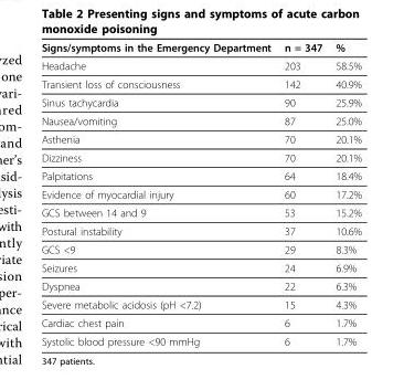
<table><thead><tr><td>Signs/symptoms in the Emergency Department</td><td>n = 347</td><td>%</td></tr></thead><tbody><tr><td>Headache</td><td>203</td><td>58.5%</td></tr><tr><td>Transient loss of consciousness</td><td>142</td><td>40.9%</td></tr><tr><td>Sinus tachycardia</td><td>90</td><td>25.9%</td></tr><tr><td>Nausea/vomiting</td><td>87</td><td>25.0%</td></tr><tr><td>Asthenia</td><td>70</td><td>20.1%</td></tr><tr><td>Dizziness</td><td>70</td><td>20.1%</td></tr><tr><td>Palpitations</td><td>64</td><td>18.4%</td></tr><tr><td>Evidence of myocardial injury</td><td>60</td><td>17.2%</td></tr><tr><td>GCS between 14 and 9</td><td>53</td><td>15.2%</td></tr><tr><td>Postural instability</td><td>37</td><td>10.6%</td></tr><tr><td>GCS &lt;9</td><td>29</td><td>8.3%</td></tr><tr><td>Seizures</td><td>24</td><td>6.9%</td></tr><tr><td>Dyspnea</td><td>22</td><td>6.3%</td></tr><tr><td>Severe metabolic acidosis (pH &lt;7.2)</td><td>15</td><td>4.3%</td></tr><tr><td>Cardiac chest pain</td><td>6</td><td>1.7%</td></tr><tr><td>Systolic blood pressure &lt;90 mmHg</td><td>6</td><td>1.7%</td></tr></tbody></table>